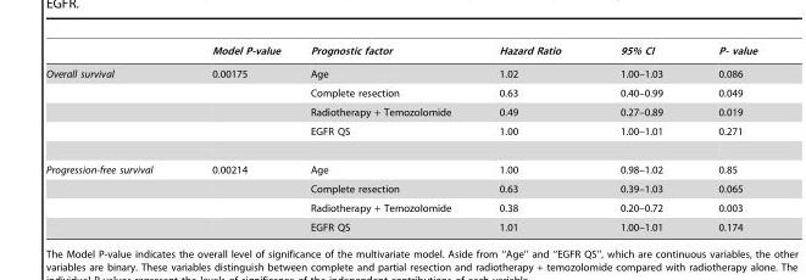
<table><thead><tr><td></td><td>Model P-value</td><td>Prognostic factor</td><td>Hazard Ratio</td><td>95% CI</td><td>P- value</td></tr></thead><tbody><tr><td rowspan="4">Overall survival</td><td>0.00175</td><td>Age</td><td>1.02</td><td>1.00–1.03</td><td>0.086</td></tr><tr><td></td><td>Complete resection</td><td>0.63</td><td>0.40–0.99</td><td>0.049</td></tr><tr><td></td><td>Radiotherapy + Temozolomide</td><td>0.49</td><td>0.27–0.89</td><td>0.019</td></tr><tr><td></td><td>EGFR QS</td><td>1.00</td><td>1.00–1.01</td><td>0.271</td></tr><tr><td rowspan="4">Progression-free survival</td><td>0.00214</td><td>Age</td><td>1.00</td><td>0.98–1.02</td><td>0.85</td></tr><tr><td></td><td>Complete resection</td><td>0.63</td><td>0.39–1.03</td><td>0.065</td></tr><tr><td></td><td>Radiotherapy + Temozolomide</td><td>0.38</td><td>0.20–0.72</td><td>0.003</td></tr><tr><td></td><td>EGFR QS</td><td>1.01</td><td>1.00–1.01</td><td>0.174</td></tr></tbody></table>